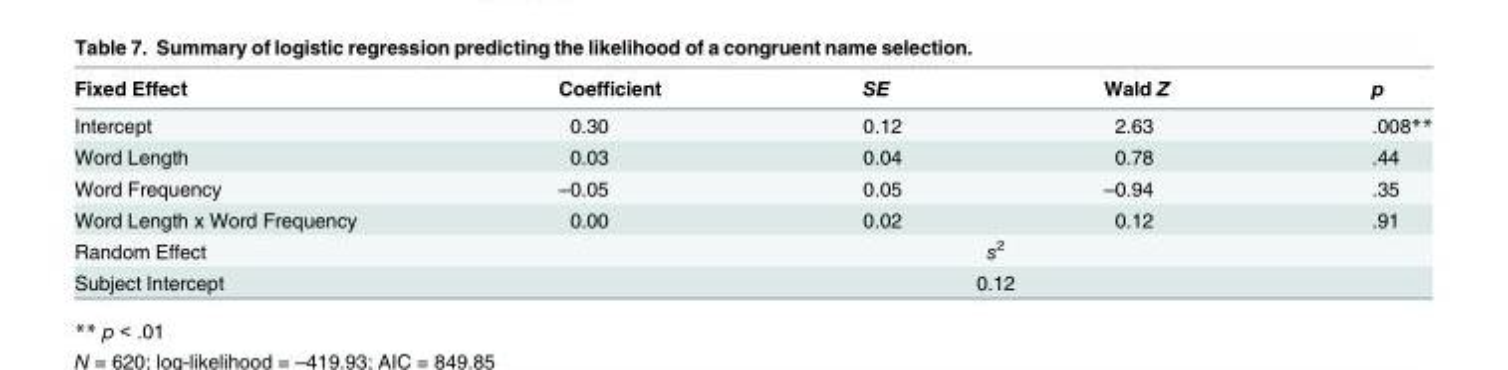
<table><thead><tr><td>Fixed Effect</td><td>Coefficient</td><td>SE</td><td>Wald Z</td><td>p</td></tr></thead><tbody><tr><td>Intercept</td><td>0.30</td><td>0.12</td><td>2.63</td><td>.008**</td></tr><tr><td>Word Length</td><td>0.03</td><td>0.04</td><td>0.78</td><td>.44</td></tr><tr><td>Word Frequency</td><td>–0.05</td><td>0.05</td><td>–0.94</td><td>.35</td></tr><tr><td>Word Length x Word Frequency</td><td>0.00</td><td>0.02</td><td>0.12</td><td>.91</td></tr><tr><td>Random Effect</td><td colspan="4">s<sup>2</sup></td></tr><tr><td>Subject Intercept</td><td colspan="4">0.12</td></tr></tbody></table>